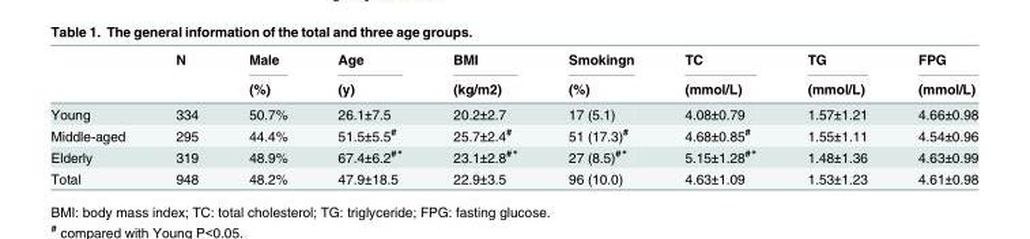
<table><thead><tr><td rowspan="2"></td><td rowspan="2">N</td><td rowspan="2">Male (%)</td><td rowspan="2">Age (y)</td><td rowspan="2">BMI (kg/m2)</td><td rowspan="2">Smokingn (%)</td><td rowspan="2">TC (mmol/L)</td><td rowspan="2">TG (mmol/L)</td><td rowspan="2">FPG (mmol/L)</td></tr><tr></tr></thead><tbody><tr><td>Young</td><td>334</td><td>50.7%</td><td>26.1±7.5</td><td>20.2±2.7</td><td>17 (5.1)</td><td>4.08±0.79</td><td>1.57±1.21</td><td>4.66±0.98</td></tr><tr><td>Middle-aged</td><td>295</td><td>44.4%</td><td>51.5±5.5<sup>#</sup></td><td>25.7±2.4<sup>#</sup></td><td>51 (17.3)<sup>#</sup></td><td>4.68±0.85<sup>#</sup></td><td>1.55±1.11</td><td>4.54±0.96</td></tr><tr><td>Elderly</td><td>319</td><td>48.9%</td><td>67.4±6.2<sup>#*</sup></td><td>23.1±2.8<sup>#*</sup></td><td>27 (8.5)<sup>#*</sup></td><td>5.15±1.28<sup>#*</sup></td><td>1.48±1.36</td><td>4.63±0.99</td></tr><tr><td>Total</td><td>948</td><td>48.2%</td><td>47.9±18.5</td><td>22.9±3.5</td><td>96 (10.0)</td><td>4.63±1.09</td><td>1.53±1.23</td><td>4.61±0.98</td></tr></tbody></table>